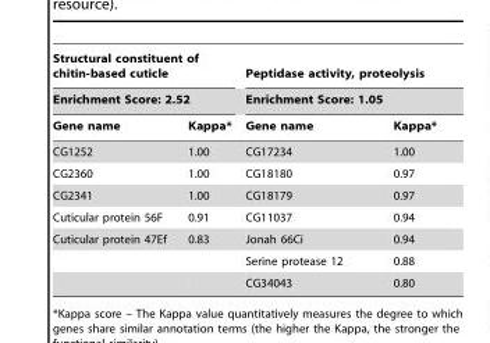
<table><thead><tr><td rowspan="2" colspan="2">Structural constituent of chitin-based cuticle Enrichment Score: 2.52</td><td rowspan="2" colspan="2">Peptidase activity, proteolysis Enrichment Score: 1.05</td></tr><tr></tr><tr><td>Gene name</td><td>Kappa*</td><td>Gene name</td><td>Kappa*</td></tr></thead><tbody><tr><td>CG1252</td><td>1.00</td><td>CG17234</td><td>1.00</td></tr><tr><td>CG2360</td><td>1.00</td><td>CG18180</td><td>0.97</td></tr><tr><td>CG2341</td><td>1.00</td><td>CG18179</td><td>0.97</td></tr><tr><td>Cuticular protein 56F</td><td>0.91</td><td>CG11037</td><td>0.94</td></tr><tr><td rowspan="3">Cuticular protein 47Ef</td><td>0.83</td><td>Jonah 66Ci</td><td>0.94</td></tr><tr><td></td><td>Serine protease 12</td><td>0.88</td></tr><tr><td></td><td>CG34043</td><td>0.80</td></tr></tbody></table>